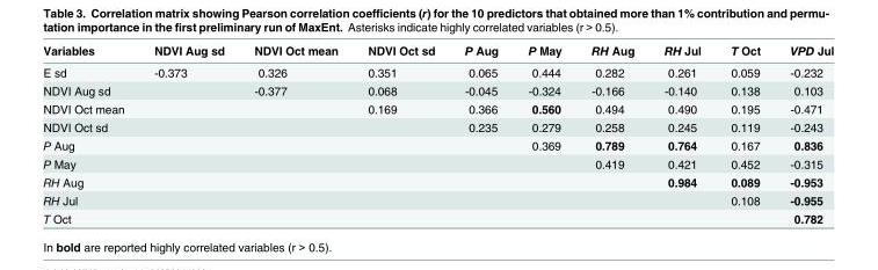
<table><thead><tr><td>Variables</td><td>NDVI Aug sd</td><td>NDVI Oct mean</td><td>NDVI Oct sd</td><td>P Aug</td><td>P May</td><td>RH Aug</td><td>RH Jul</td><td>T Oct</td><td>VPD Jul</td></tr></thead><tbody><tr><td>E sd</td><td>-0.373</td><td>0.326</td><td>0.351</td><td>0.065</td><td>0.444</td><td>0.282</td><td>0.261</td><td>0.059</td><td>-0.232</td></tr><tr><td>NDVI Aug sd</td><td></td><td>-0.377</td><td>0.068</td><td>-0.045</td><td>-0.324</td><td>-0.166</td><td>-0.140</td><td>0.138</td><td>0.103</td></tr><tr><td>NDVI Oct mean</td><td></td><td></td><td>0.169</td><td>0.366</td><td>0.560</td><td>0.494</td><td>0.490</td><td>0.195</td><td>-0.471</td></tr><tr><td>NDVI Oct sd</td><td></td><td></td><td></td><td>0.235</td><td>0.279</td><td>0.258</td><td>0.245</td><td>0.119</td><td>-0.243</td></tr><tr><td>P Aug</td><td></td><td></td><td></td><td></td><td>0.369</td><td>0.789</td><td>0.764</td><td>0.167</td><td>0.836</td></tr><tr><td>P May</td><td></td><td></td><td></td><td></td><td></td><td>0.419</td><td>0.421</td><td>0.452</td><td>-0.315</td></tr><tr><td>RH Aug</td><td></td><td></td><td></td><td></td><td></td><td></td><td>0.984</td><td>0.089</td><td>-0.953</td></tr><tr><td>RH Jul</td><td></td><td></td><td></td><td></td><td></td><td></td><td></td><td>0.108</td><td>-0.955</td></tr><tr><td>T Oct</td><td></td><td></td><td></td><td></td><td></td><td></td><td></td><td></td><td>0.782</td></tr></tbody></table>